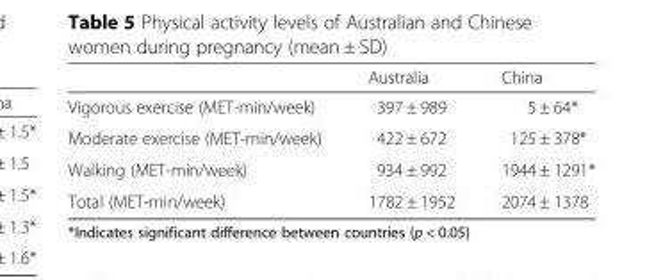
<table><thead><tr><td></td><td>Australia</td><td>China</td></tr></thead><tbody><tr><td>Vigorous exercise (MET-min/week)</td><td>397 ± 989</td><td>5 ± 64*</td></tr><tr><td>Moderate exercise (MET-min/week)</td><td>422 ± 672</td><td>125 ± 378*</td></tr><tr><td>Walking (MET-min/week)</td><td>934 ± 992</td><td>1944 ± 1291*</td></tr><tr><td>Total (MET-min/week)</td><td>1782 ± 1952</td><td>2074 ± 1378</td></tr></tbody></table>